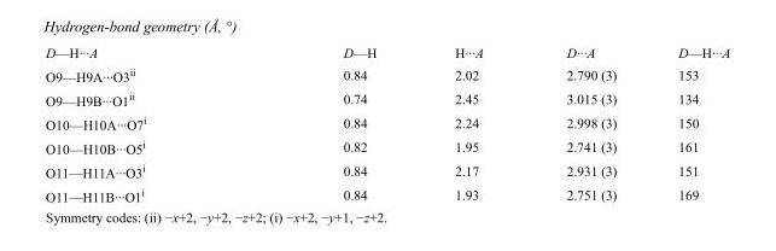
<table><tbody><tr><td>D—H···A</td><td>D—H</td><td>H···A</td><td>D···A</td><td>D—H···A</td></tr><tr><td>O9—H9A···O3<sup>ii</sup></td><td>0.84</td><td>2.02</td><td>2.790 (3)</td><td>153</td></tr><tr><td>O9—H9B···O1<sup>ii</sup></td><td>0.74</td><td>2.45</td><td>3.015 (3)</td><td>134</td></tr><tr><td>O10—H10A···O7<sup>i</sup></td><td>0.84</td><td>2.24</td><td>2.998 (3)</td><td>150</td></tr><tr><td>O10—H10B···O5<sup>i</sup></td><td>0.82</td><td>1.95</td><td>2.741 (3)</td><td>161</td></tr><tr><td>O11—H11A···O3<sup>i</sup></td><td>0.84</td><td>2.17</td><td>2.931 (3)</td><td>151</td></tr><tr><td>O11—H11B···O1<sup>i</sup></td><td>0.84</td><td>1.93</td><td>2.751 (3)</td><td>169</td></tr></tbody></table>